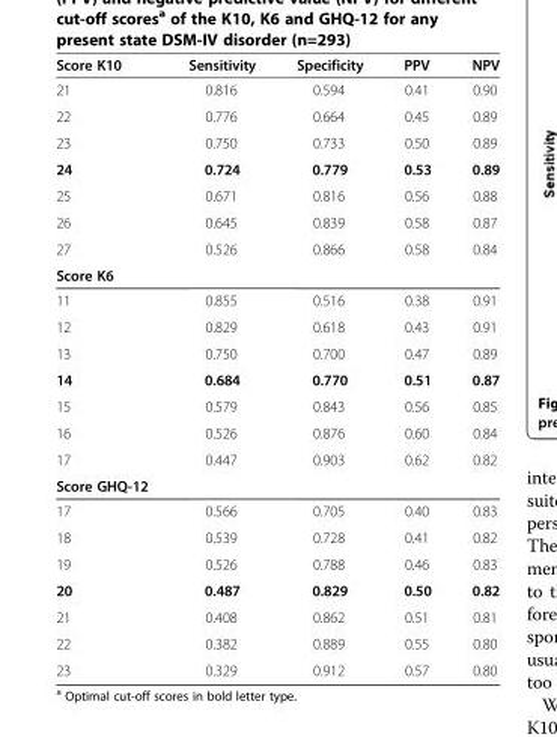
<table><thead><tr><td>Score K10</td><td>Sensitivity</td><td>Specificity</td><td>PPV</td><td>NPV</td></tr></thead><tbody><tr><td>21</td><td>0.816</td><td>0.594</td><td>0.41</td><td>0.90</td></tr><tr><td>22</td><td>0.776</td><td>0.664</td><td>0.45</td><td>0.89</td></tr><tr><td>23</td><td>0.750</td><td>0.733</td><td>0.50</td><td>0.89</td></tr><tr><td>24</td><td>0.724</td><td>0.779</td><td>0.53</td><td>0.89</td></tr><tr><td>25</td><td>0.671</td><td>0.816</td><td>0.56</td><td>0.88</td></tr><tr><td>26</td><td>0.645</td><td>0.839</td><td>0.58</td><td>0.87</td></tr><tr><td>27</td><td>0.526</td><td>0.866</td><td>0.58</td><td>0.84</td></tr><tr><td colspan="5">Score K6</td></tr><tr><td>11</td><td>0.855</td><td>0.516</td><td>0.38</td><td>0.91</td></tr><tr><td>12</td><td>0.829</td><td>0.618</td><td>0.43</td><td>0.91</td></tr><tr><td>13</td><td>0.750</td><td>0.700</td><td>0.47</td><td>0.89</td></tr><tr><td>14</td><td>0.684</td><td>0.770</td><td>0.51</td><td>0.87</td></tr><tr><td>15</td><td>0.579</td><td>0.843</td><td>0.56</td><td>0.85</td></tr><tr><td>16</td><td>0.526</td><td>0.876</td><td>0.60</td><td>0.84</td></tr><tr><td>17</td><td>0.447</td><td>0.903</td><td>0.62</td><td>0.82</td></tr><tr><td colspan="5">Score GHQ-12</td></tr><tr><td>17</td><td>0.566</td><td>0.705</td><td>0.40</td><td>0.83</td></tr><tr><td>18</td><td>0.539</td><td>0.728</td><td>0.41</td><td>0.82</td></tr><tr><td>19</td><td>0.526</td><td>0.788</td><td>0.46</td><td>0.83</td></tr><tr><td>20</td><td>0.487</td><td>0.829</td><td>0.50</td><td>0.82</td></tr><tr><td>21</td><td>0.408</td><td>0.862</td><td>0.51</td><td>0.81</td></tr><tr><td>22</td><td>0.382</td><td>0.889</td><td>0.55</td><td>0.80</td></tr><tr><td>23</td><td>0.329</td><td>0.912</td><td>0.57</td><td>0.80</td></tr></tbody></table>